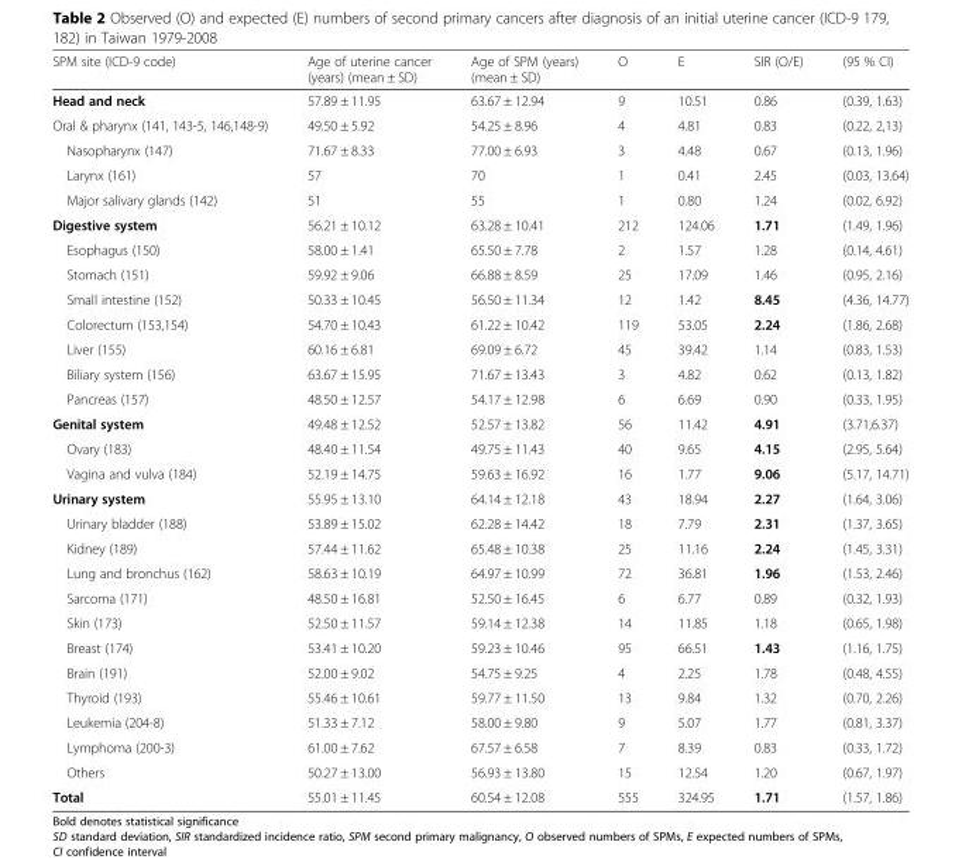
<table><thead><tr><td>SPM site (ICD-9 code)</td><td>Age of uterine cancer (years) (mean ± SD)</td><td>Age of SPM (years) (mean ± SD)</td><td>O</td><td>E</td><td>SIR (O/E)</td><td>(95 % CI)</td></tr></thead><tbody><tr><td>Head and neck</td><td>57.89 ± 11.95</td><td>63.67 ± 12.94</td><td>9</td><td>10.51</td><td>0.86</td><td>(0.39, 1.63)</td></tr><tr><td>Oral &amp; pharynx (141, 143-5, 146,148-9)</td><td>49.50 ± 5.92</td><td>54.25 ± 8.96</td><td>4</td><td>4.81</td><td>0.83</td><td>(0.22, 2,13)</td></tr><tr><td>Nasopharynx (147)</td><td>71.67 ± 8.33</td><td>77.00 ± 6.93</td><td>3</td><td>4.48</td><td>0.67</td><td>(0.13, 1.96)</td></tr><tr><td>Larynx (161)</td><td>57</td><td>70</td><td>1</td><td>0.41</td><td>2.45</td><td>(0.03, 13.64)</td></tr><tr><td>Major salivary glands (142)</td><td>51</td><td>55</td><td>1</td><td>0.80</td><td>1.24</td><td>(0.02, 6.92)</td></tr><tr><td>Digestive system</td><td>56.21 ± 10.12</td><td>63.28 ± 10.41</td><td>212</td><td>124.06</td><td>1.71</td><td>(1.49, 1.96)</td></tr><tr><td>Esophagus (150)</td><td>58.00 ± 1.41</td><td>65.50 ± 7.78</td><td>2</td><td>1.57</td><td>1.28</td><td>(0.14, 4.61)</td></tr><tr><td>Stomach (151)</td><td>59.92 ± 9.06</td><td>66.88 ± 8.59</td><td>25</td><td>17.09</td><td>1.46</td><td>(0.95, 2.16)</td></tr><tr><td>Small intestine (152)</td><td>50.33 ± 10.45</td><td>56.50 ± 11.34</td><td>12</td><td>1.42</td><td>8.45</td><td>(4.36, 14.77)</td></tr><tr><td>Colorectum (153,154)</td><td>54.70 ± 10.43</td><td>61.22 ± 10.42</td><td>119</td><td>53.05</td><td>2.24</td><td>(1.86, 2.68)</td></tr><tr><td>Liver (155)</td><td>60.16 ± 6.81</td><td>69.09 ± 6.72</td><td>45</td><td>39.42</td><td>1.14</td><td>(0.83, 1.53)</td></tr><tr><td>Biliary system (156)</td><td>63.67 ± 15.95</td><td>71.67 ± 13.43</td><td>3</td><td>4.82</td><td>0.62</td><td>(0.13, 1.82)</td></tr><tr><td>Pancreas (157)</td><td>48.50 ± 12.57</td><td>54.17 ± 12.98</td><td>6</td><td>6.69</td><td>0.90</td><td>(0.33, 1.95)</td></tr><tr><td>Genital system</td><td>49.48 ± 12.52</td><td>52.57 ± 13.82</td><td>56</td><td>11.42</td><td>4.91</td><td>(3.71,6.37)</td></tr><tr><td>Ovary (183)</td><td>48.40 ± 11.54</td><td>49.75 ± 11.43</td><td>40</td><td>9.65</td><td>4.15</td><td>(2.95, 5.64)</td></tr><tr><td>Vagina and vulva (184)</td><td>52.19 ± 14.75</td><td>59.63 ± 16.92</td><td>16</td><td>1.77</td><td>9.06</td><td>(5.17, 14.71)</td></tr><tr><td>Urinary system</td><td>55.95 ± 13.10</td><td>64.14 ± 12.18</td><td>43</td><td>18.94</td><td>2.27</td><td>(1.64, 3.06)</td></tr><tr><td>Urinary bladder (188)</td><td>53.89 ± 15.02</td><td>62.28 ± 14.42</td><td>18</td><td>7.79</td><td>2.31</td><td>(1.37, 3.65)</td></tr><tr><td>Kidney (189)</td><td>57.44 ± 11.62</td><td>65.48 ± 10.38</td><td>25</td><td>11.16</td><td>2.24</td><td>(1.45, 3.31)</td></tr><tr><td>Lung and bronchus (162)</td><td>58.63 ± 10.19</td><td>64.97 ± 10.99</td><td>72</td><td>36.81</td><td>1.96</td><td>(1.53, 2.46)</td></tr><tr><td>Sarcoma (171)</td><td>48.50 ± 16.81</td><td>52.50 ± 16.45</td><td>6</td><td>6.77</td><td>0.89</td><td>(0.32, 1.93)</td></tr><tr><td>Skin (173)</td><td>52.50 ± 11.57</td><td>59.14 ± 12.38</td><td>14</td><td>11.85</td><td>1.18</td><td>(0.65, 1.98)</td></tr><tr><td>Breast (174)</td><td>53.41 ± 10.20</td><td>59.23 ± 10.46</td><td>95</td><td>66.51</td><td>1.43</td><td>(1.16, 1.75)</td></tr><tr><td>Brain (191)</td><td>52.00 ± 9.02</td><td>54.75 ± 9.25</td><td>4</td><td>2.25</td><td>1.78</td><td>(0.48, 4.55)</td></tr><tr><td>Thyroid (193)</td><td>55.46 ± 10.61</td><td>59.77 ± 11.50</td><td>13</td><td>9.84</td><td>1.32</td><td>(0.70, 2.26)</td></tr><tr><td>Leukemia (204-8)</td><td>51.33 ± 7.12</td><td>58.00 ± 9.80</td><td>9</td><td>5.07</td><td>1.77</td><td>(0.81, 3.37)</td></tr><tr><td>Lymphoma (200-3)</td><td>61.00 ± 7.62</td><td>67.57 ± 6.58</td><td>7</td><td>8.39</td><td>0.83</td><td>(0.33, 1.72)</td></tr><tr><td>Others</td><td>50.27 ± 13.00</td><td>56.93 ± 13.80</td><td>15</td><td>12.54</td><td>1.20</td><td>(0.67, 1.97)</td></tr><tr><td>Total</td><td>55.01 ± 11.45</td><td>60.54 ± 12.08</td><td>555</td><td>324.95</td><td>1.71</td><td>(1.57, 1.86)</td></tr></tbody></table>